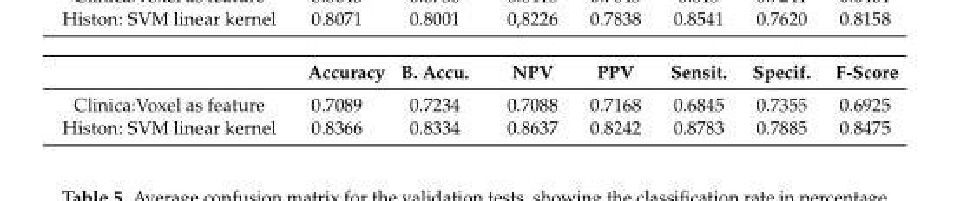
<table><thead><tr><td></td><td>Accuracy</td><td>B. Accu.</td><td>NPV</td><td>PPV</td><td>Sensit.</td><td>Specif.</td><td>F-Score</td></tr></thead><tbody><tr><td>Clinica:Voxel as feature</td><td>0.7089</td><td>0.7234</td><td>0.7088</td><td>0.7168</td><td>0.6845</td><td>0.7355</td><td>0.6925</td></tr><tr><td>Histon: SVM linear kernel</td><td>0.8366</td><td>0.8334</td><td>0.8637</td><td>0.8242</td><td>0.8783</td><td>0.7885</td><td>0.8475</td></tr></tbody></table>